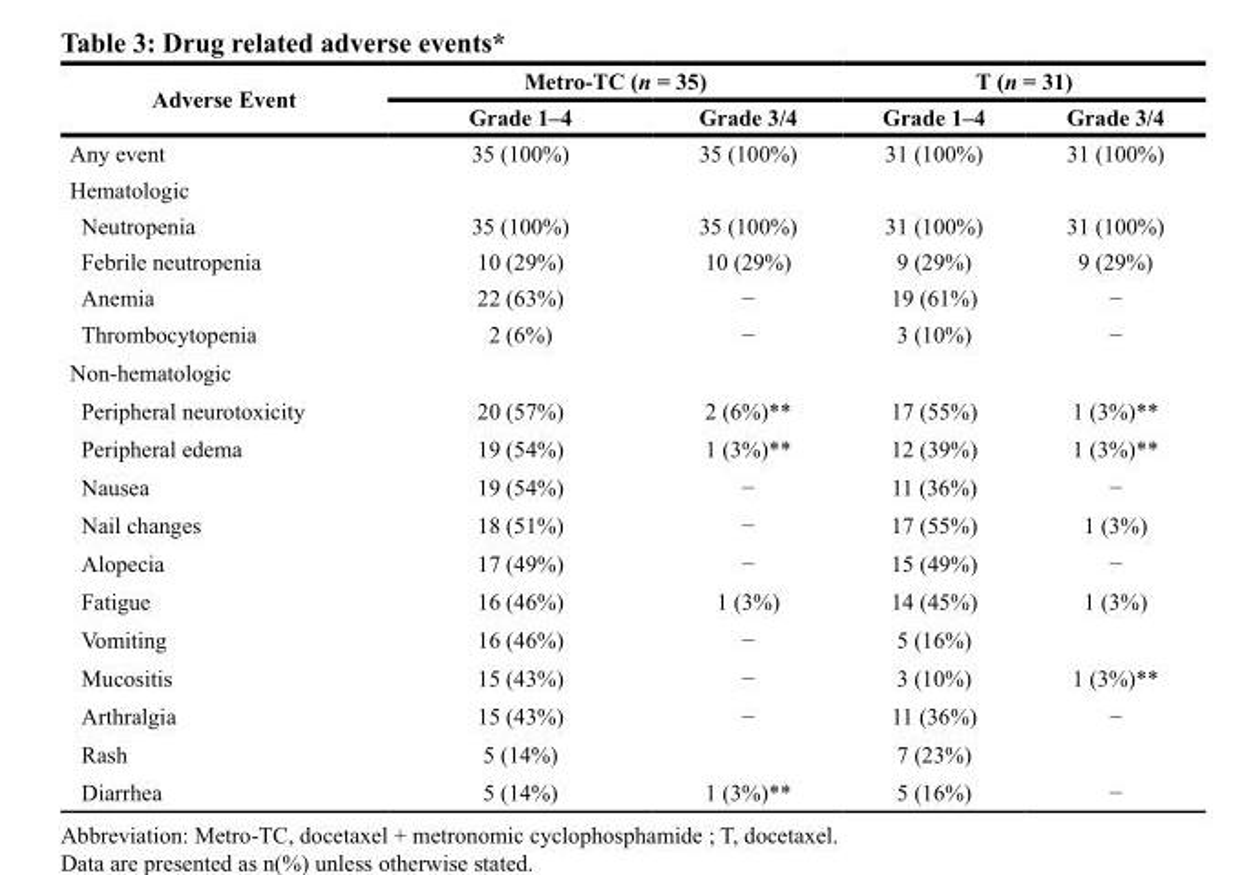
<table><thead><tr><td rowspan="2">Adverse Event</td><td colspan="2">Metro-TC (n = 35)</td><td colspan="2">T (n = 31)</td></tr><tr><td>Grade 1–4</td><td>Grade 3/4</td><td>Grade 1–4</td><td>Grade 3/4</td></tr></thead><tbody><tr><td>Any event</td><td>35 (100%)</td><td>35 (100%)</td><td>31 (100%)</td><td>31 (100%)</td></tr><tr><td colspan="5">Hematologic</td></tr><tr><td>Neutropenia</td><td>35 (100%)</td><td>35 (100%)</td><td>31 (100%)</td><td>31 (100%)</td></tr><tr><td>Febrile neutropenia</td><td>10 (29%)</td><td>10 (29%)</td><td>9 (29%)</td><td>9 (29%)</td></tr><tr><td>Anemia</td><td>22 (63%)</td><td>−</td><td>19 (61%)</td><td>−</td></tr><tr><td>Thrombocytopenia</td><td>2 (6%)</td><td>−</td><td>3 (10%)</td><td>−</td></tr><tr><td colspan="5">Non-hematologic</td></tr><tr><td>Peripheral neurotoxicity</td><td>20 (57%)</td><td>2 (6%)**</td><td>17 (55%)</td><td>1 (3%)**</td></tr><tr><td>Peripheral edema</td><td>19 (54%)</td><td>1 (3%)**</td><td>12 (39%)</td><td>1 (3%)**</td></tr><tr><td>Nausea</td><td>19 (54%)</td><td>−</td><td>11 (36%)</td><td>−</td></tr><tr><td>Nail changes</td><td>18 (51%)</td><td>−</td><td>17 (55%)</td><td>1 (3%)</td></tr><tr><td>Alopecia</td><td>17 (49%)</td><td>−</td><td>15 (49%)</td><td>−</td></tr><tr><td>Fatigue</td><td>16 (46%)</td><td>1 (3%)</td><td>14 (45%)</td><td>1 (3%)</td></tr><tr><td>Vomiting</td><td>16 (46%)</td><td>−</td><td>5 (16%)</td><td></td></tr><tr><td>Mucositis</td><td>15 (43%)</td><td>−</td><td>3 (10%)</td><td>1 (3%)**</td></tr><tr><td>Arthralgia</td><td>15 (43%)</td><td>−</td><td>11 (36%)</td><td>−</td></tr><tr><td>Rash</td><td>5 (14%)</td><td></td><td>7 (23%)</td><td></td></tr><tr><td>Diarrhea</td><td>5 (14%)</td><td>1 (3%)**</td><td>5 (16%)</td><td>−</td></tr></tbody></table>